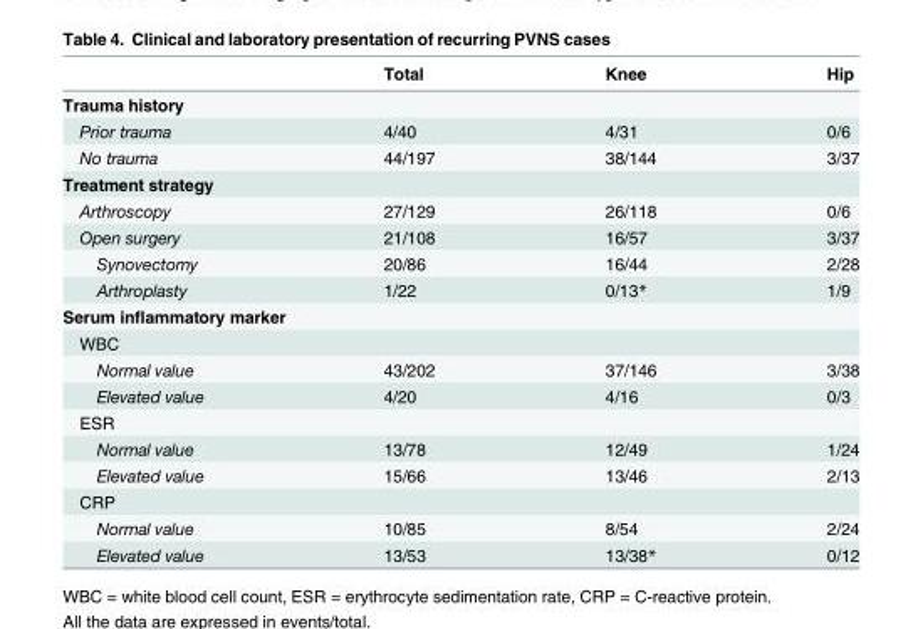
<table><thead><tr><td></td><td>Total</td><td>Knee</td><td>Hip</td></tr></thead><tbody><tr><td colspan="4">Trauma history</td></tr><tr><td>Prior trauma</td><td>4/40</td><td>4/31</td><td>0/6</td></tr><tr><td>No trauma</td><td>44/197</td><td>38/144</td><td>3/37</td></tr><tr><td colspan="4">Treatment strategy</td></tr><tr><td>Arthroscopy</td><td>27/129</td><td>26/118</td><td>0/6</td></tr><tr><td>Open surgery</td><td>21/108</td><td>16/57</td><td>3/37</td></tr><tr><td>Synovectomy</td><td>20/86</td><td>16/44</td><td>2/28</td></tr><tr><td>Arthroplasty</td><td>1/22</td><td>0/13*</td><td>1/9</td></tr><tr><td colspan="4">Serum inflammatory marker</td></tr><tr><td colspan="4">WBC</td></tr><tr><td>Normal value</td><td>43/202</td><td>37/146</td><td>3/38</td></tr><tr><td>Elevated value</td><td>4/20</td><td>4/16</td><td>0/3</td></tr><tr><td colspan="4">ESR</td></tr><tr><td>Normal value</td><td>13/78</td><td>12/49</td><td>1/24</td></tr><tr><td>Elevated value</td><td>15/66</td><td>13/46</td><td>2/13</td></tr><tr><td colspan="4">CRP</td></tr><tr><td>Normal value</td><td>10/85</td><td>8/54</td><td>2/24</td></tr><tr><td>Elevated value</td><td>13/53</td><td>13/38*</td><td>0/12</td></tr></tbody></table>